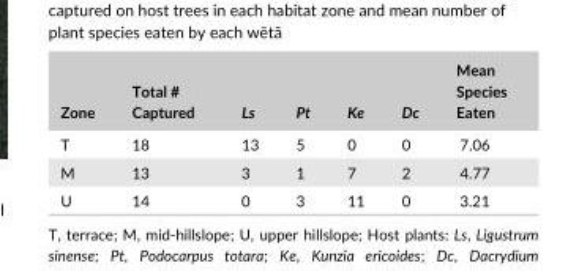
<table><thead><tr><td>Zone</td><td>Total # Captured</td><td>Ls</td><td>Pt</td><td>Ke</td><td>Dc</td><td>Mean Species Eaten</td></tr></thead><tbody><tr><td>T</td><td>18</td><td>13</td><td>5</td><td>0</td><td>0</td><td>7.06</td></tr><tr><td>M</td><td>13</td><td>3</td><td>1</td><td>7</td><td>2</td><td>4.77</td></tr><tr><td>U</td><td>14</td><td>0</td><td>3</td><td>11</td><td>0</td><td>3.21</td></tr></tbody></table>